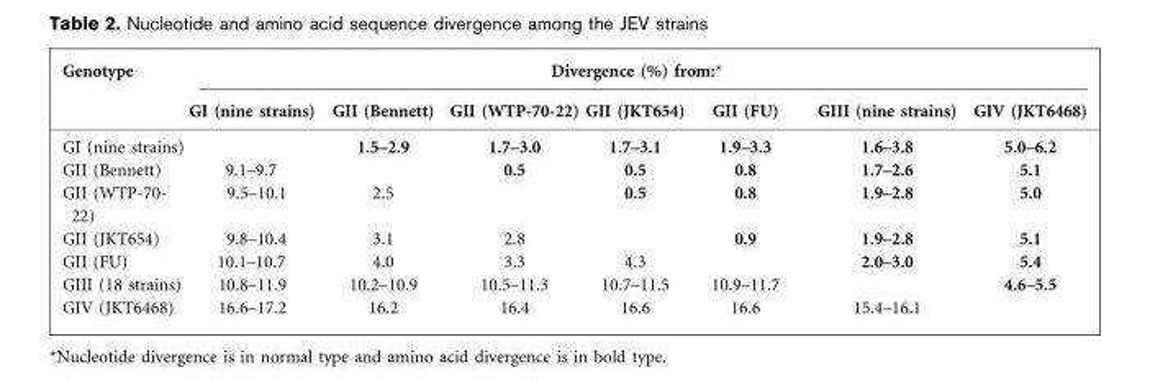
<table><thead><tr><td rowspan="2">Genotype</td><td colspan="7">Divergence (%) from:*</td></tr><tr><td>GI (nine strains)</td><td>GII (Bennett)</td><td>GII (WTP-70-22)</td><td>GII (JKT654)</td><td>GII (FU)</td><td>GIII (nine strains)</td><td>GIV (JKT6468)</td></tr></thead><tbody><tr><td>GI (nine strains)</td><td></td><td>1.5–2.9</td><td>1.7–3.0</td><td>1.7–3.1</td><td>1.9–3.3</td><td>1.6–3.8</td><td>5.0–6.2</td></tr><tr><td>GII (Bennett)</td><td>9.1–9.7</td><td></td><td>0.5</td><td>0.5</td><td>0.8</td><td>1.7–2.6</td><td>5.1</td></tr><tr><td>GII (WTP-70- 22)</td><td>9.5–10.1</td><td>2.5</td><td></td><td>0.5</td><td>0.8</td><td>1.9–2.8</td><td>5.0</td></tr><tr><td>GII (JKT654)</td><td>9.8–10.4</td><td>3.1</td><td>2.8</td><td></td><td>0.9</td><td>1.9–2.8</td><td>5.1</td></tr><tr><td>GII (FU)</td><td>10.1–10.7</td><td>4.0</td><td>3.3</td><td>4.3</td><td></td><td>2.0–3.0</td><td>5.4</td></tr><tr><td>GIII (18 strains)</td><td>10.8–11.9</td><td>10.2–10.9</td><td>10.5–11.3</td><td>10.7–11.5</td><td>10.9–11.7</td><td></td><td>4.6–5.5</td></tr><tr><td>GIV (JKT6468)</td><td>16.6–17.2</td><td>16.2</td><td>16.4</td><td>16.6</td><td>16.6</td><td>15.4–16.1</td><td></td></tr></tbody></table>